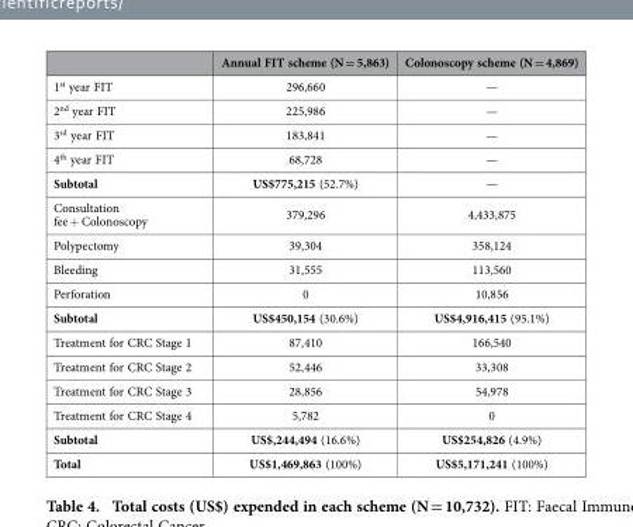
<table><thead><tr><td></td><td>Annual FIT scheme (N = 5,863)</td><td>Colonoscopy scheme (N = 4,869)</td></tr></thead><tbody><tr><td>1<sup>st</sup> year FIT</td><td>296,660</td><td>—</td></tr><tr><td>2<sup>nd</sup> year FIT</td><td>225,986</td><td>—</td></tr><tr><td>3<sup>rd</sup> year FIT</td><td>183,841</td><td>—</td></tr><tr><td>4<sup>th</sup> year FIT</td><td>68,728</td><td>—</td></tr><tr><td>Subtotal</td><td>US$775,215 (52.7%)</td><td>—</td></tr><tr><td>Consultation fee + Colonoscopy</td><td>379,296</td><td>4,433,875</td></tr><tr><td>Polypectomy</td><td>39,304</td><td>358,124</td></tr><tr><td>Bleeding</td><td>31,555</td><td>113,560</td></tr><tr><td>Perforation</td><td>0</td><td>10,856</td></tr><tr><td>Subtotal</td><td>US$450,154 (30.6%)</td><td>US$4,916,415 (95.1%)</td></tr><tr><td>Treatment for CRC Stage 1</td><td>87,410</td><td>166,540</td></tr><tr><td>Treatment for CRC Stage 2</td><td>52,446</td><td>33,308</td></tr><tr><td>Treatment for CRC Stage 3</td><td>28,856</td><td>54,978</td></tr><tr><td>Treatment for CRC Stage 4</td><td>5,782</td><td>0</td></tr><tr><td>Subtotal</td><td>US$,244,494 (16.6%)</td><td>US$254,826 (4.9%)</td></tr><tr><td>Total</td><td>US$1,469,863 (100%)</td><td>US$5,171,241 (100%)</td></tr></tbody></table>